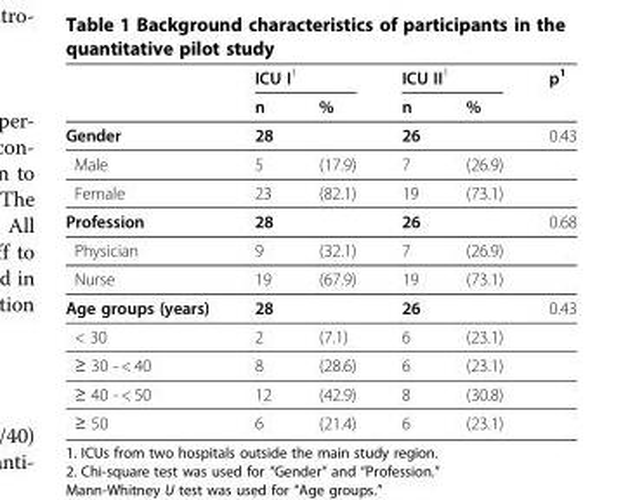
<table><thead><tr><td rowspan="2"></td><td colspan="2">ICU I<sup>1</sup></td><td colspan="2">ICU II<sup>1</sup></td><td rowspan="2">p<sup>1</sup></td></tr><tr><td>n</td><td>%</td><td>n</td><td>%</td></tr></thead><tbody><tr><td>Gender</td><td>28</td><td></td><td>26</td><td></td><td>0.43</td></tr><tr><td>Male</td><td>5</td><td>(17.9)</td><td>7</td><td>(26.9)</td><td></td></tr><tr><td>Female</td><td>23</td><td>(82.1)</td><td>19</td><td>(73.1)</td><td></td></tr><tr><td>Profession</td><td>28</td><td></td><td>26</td><td></td><td>0.68</td></tr><tr><td>Physician</td><td>9</td><td>(32.1)</td><td>7</td><td>(26.9)</td><td></td></tr><tr><td>Nurse</td><td>19</td><td>(67.9)</td><td>19</td><td>(73.1)</td><td></td></tr><tr><td>Age groups (years)</td><td>28</td><td></td><td>26</td><td></td><td>0.43</td></tr><tr><td>&lt; 30</td><td>2</td><td>(7.1)</td><td>6</td><td>(23.1)</td><td></td></tr><tr><td>≥ 30 - &lt; 40</td><td>8</td><td>(28.6)</td><td>6</td><td>(23.1)</td><td></td></tr><tr><td>≥ 40 - &lt; 50</td><td>12</td><td>(42.9)</td><td>8</td><td>(30.8)</td><td></td></tr><tr><td>≥ 50</td><td>6</td><td>(21.4)</td><td>6</td><td>(23.1)</td><td></td></tr></tbody></table>